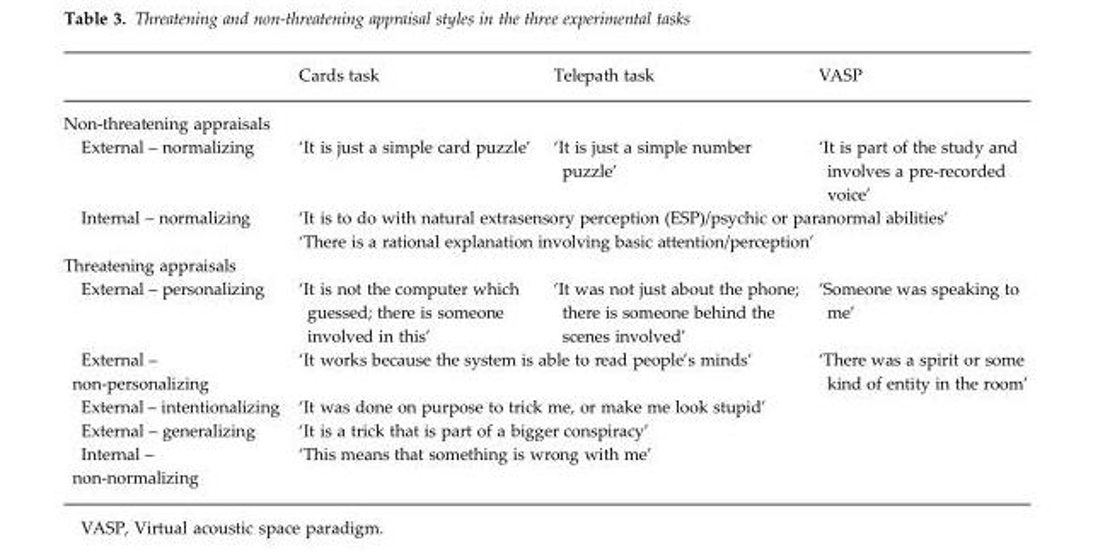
<table><thead><tr><td></td><td>Cards task</td><td>Telepath task</td><td>VASP</td></tr></thead><tbody><tr><td colspan="4">Non-threatening appraisals</td></tr><tr><td>External – normalizing</td><td>‘It is just a simple card puzzle’</td><td>‘It is just a simple number puzzle’</td><td>‘It is part of the study and involves a pre-recorded voice’</td></tr><tr><td rowspan="2">Internal – normalizing</td><td colspan="3">‘It is to do with natural extrasensory perception (ESP)/psychic or paranormal abilities’</td></tr><tr><td colspan="3">‘There is a rational explanation involving basic attention/perception’</td></tr><tr><td colspan="4">Threatening appraisals</td></tr><tr><td>External – personalizing</td><td>‘It is not the computer which guessed; there is someone involved in this’</td><td>‘It was not just about the phone; there is someone behind the scenes involved’</td><td>‘Someone was speaking to me’</td></tr><tr><td>External – non-personalizing</td><td colspan="2">‘It works because the system is able to read people’s minds’</td><td>‘There was a spirit or some kind of entity in the room’</td></tr><tr><td>External – intentionalizing</td><td colspan="3">‘It was done on purpose to trick me, or make me look stupid’</td></tr><tr><td>External – generalizing</td><td colspan="3">‘It is a trick that is part of a bigger conspiracy’</td></tr><tr><td>Internal – non-normalizing</td><td colspan="3">‘This means that something is wrong with me’</td></tr></tbody></table>